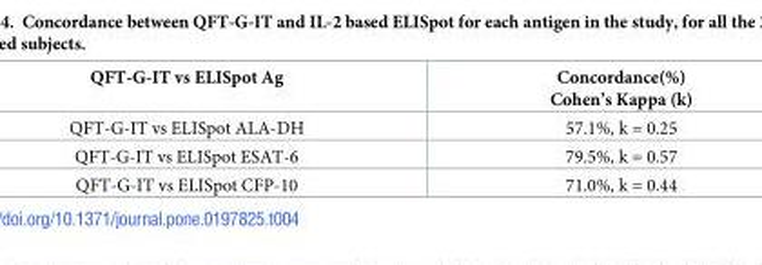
<table><thead><tr><td>QFT-G-IT vs ELISpot Ag</td><td>Concordance(%) Cohen’s Kappa (k)</td></tr></thead><tbody><tr><td>QFT-G-IT vs ELISpot ALA-DH</td><td>57.1%, k = 0.25</td></tr><tr><td>QFT-G-IT vs ELISpot ESAT-6</td><td>79.5%, k = 0.57</td></tr><tr><td>QFT-G-IT vs ELISpot CFP-10</td><td>71.0%, k = 0.44</td></tr></tbody></table>